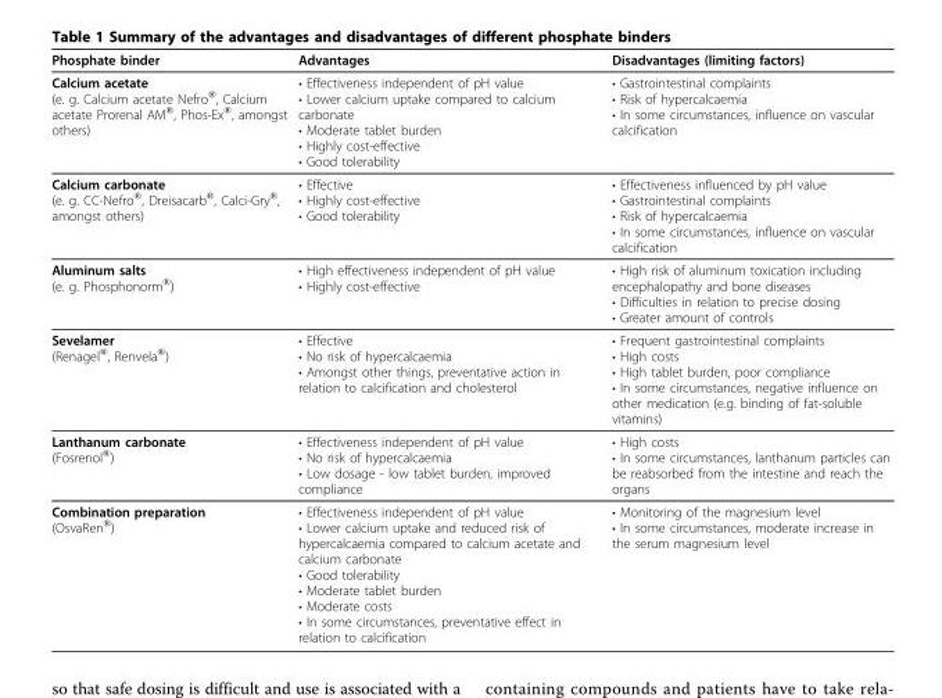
<table><thead><tr><td>Phosphate binder</td><td>Advantages</td><td>Disadvantages (limiting factors)</td></tr></thead><tbody><tr><td>Calcium acetate (e. g. Calcium acetate Nefro<sup>®</sup>, Calcium acetate Prorenal AM<sup>®</sup>, Phos-Ex<sup>®</sup>, amongst others)</td><td>• Effectiveness independent of pH value • Lower calcium uptake compared to calcium carbonate • Moderate tablet burden • Highly cost-effective • Good tolerability</td><td>• Gastrointestinal complaints • Risk of hypercalcaemia • In some circumstances, influence on vascular calcification</td></tr><tr><td>Calcium carbonate (e. g. CC-Nefro<sup>®</sup>, Dreisacarb<sup>®</sup>, Calci-Gry<sup>®</sup>, amongst others)</td><td>• Effective • Highly cost-effective • Good tolerability</td><td>• Effectiveness influenced by pH value • Gastrointestinal complaints • Risk of hypercalcaemia • In some circumstances, influence on vascular calcification</td></tr><tr><td>Aluminum salts (e. g. Phosphonorm<sup>®</sup>)</td><td>• High effectiveness independent of pH value • Highly cost-effective</td><td>• High risk of aluminum toxication including encephalopathy and bone diseases • Difficulties in relation to precise dosing • Greater amount of controls</td></tr><tr><td>Sevelamer (Renagel<sup>®</sup>, Renvela<sup>®</sup>)</td><td>• Effective • No risk of hypercalcaemia • Amongst other things, preventative action in relation to calcification and cholesterol</td><td>• Frequent gastrointestinal complaints • High costs • High tablet burden, poor compliance • In some circumstances, negative influence on other medication (e.g. binding of fat-soluble vitamins)</td></tr><tr><td>Lanthanum carbonate (Fosrenol<sup>®</sup>)</td><td>• Effectiveness independent of pH value • No risk of hypercalcaemia • Low dosage - low tablet burden, improved compliance</td><td>• High costs • In some circumstances, lanthanum particles can be reabsorbed from the intestine and reach the organs</td></tr><tr><td>Combination preparation (OsvaRen<sup>®</sup>)</td><td>• Effectiveness independent of pH value • Lower calcium uptake and reduced risk of hypercalcaemia compared to calcium acetate and calcium carbonate • Good tolerability • Moderate tablet burden • Moderate costs • In some circumstances, preventative effect in relation to calcification</td><td>• Monitoring of the magnesium level • In some circumstances, moderate increase in the serum magnesium level</td></tr></tbody></table>